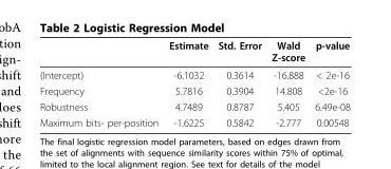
<table><thead><tr><td></td><td>Estimate</td><td>Std. Error</td><td>Wald Z-score</td><td>p-value</td></tr></thead><tbody><tr><td>(Intercept)</td><td>-6.1032</td><td>0.3614</td><td>-16.888</td><td>&lt; 2e-16</td></tr><tr><td>Frequency</td><td>5.7816</td><td>0.3904</td><td>14.808</td><td>&lt;2e-16</td></tr><tr><td>Robustness</td><td>4.7489</td><td>0.8787</td><td>5.405</td><td>6.49e-08</td></tr><tr><td>Maximum bits- per-position</td><td>-1.6225</td><td>0.5842</td><td>-2.777</td><td>0.00548</td></tr></tbody></table>